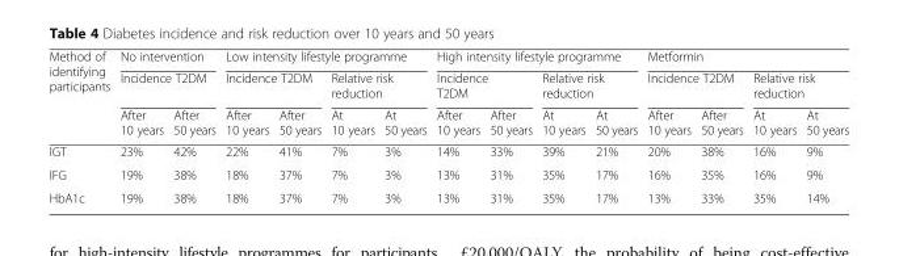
<table><thead><tr><td rowspan="3">Method of identifying participants</td><td rowspan="2" colspan="2">No intervention Incidence T2DM</td><td colspan="4">Low intensity lifestyle programme</td><td colspan="4">High intensity lifestyle programme</td><td colspan="4">Metformin</td></tr><tr><td colspan="2">Incidence T2DM</td><td colspan="2">Relative risk reduction</td><td colspan="2">Incidence T2DM</td><td colspan="2">Relative risk reduction</td><td colspan="2">Incidence T2DM</td><td colspan="2">Relative risk reduction</td></tr><tr><td>After 10 years</td><td>After 50 years</td><td>After 10 years</td><td>After 50 years</td><td>At 10 years</td><td>At 50 years</td><td>After 10 years</td><td>After 50 years</td><td>At 10 years</td><td>At 50 years</td><td>After 10 years</td><td>After 50 years</td><td>At 10 years</td><td>At 50 years</td></tr></thead><tbody><tr><td>IGT</td><td>23%</td><td>42%</td><td>22%</td><td>41%</td><td>7%</td><td>3%</td><td>14%</td><td>33%</td><td>39%</td><td>21%</td><td>20%</td><td>38%</td><td>16%</td><td>9%</td></tr><tr><td>IFG</td><td>19%</td><td>38%</td><td>18%</td><td>37%</td><td>7%</td><td>3%</td><td>13%</td><td>31%</td><td>35%</td><td>17%</td><td>16%</td><td>35%</td><td>16%</td><td>9%</td></tr><tr><td>HbA1c</td><td>19%</td><td>38%</td><td>18%</td><td>37%</td><td>7%</td><td>3%</td><td>13%</td><td>31%</td><td>35%</td><td>17%</td><td>13%</td><td>33%</td><td>35%</td><td>14%</td></tr></tbody></table>